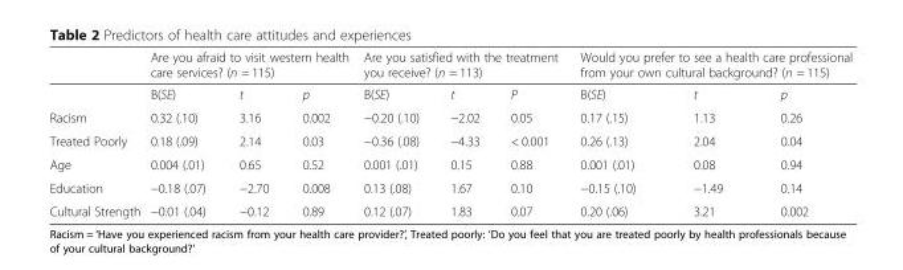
<table><thead><tr><td rowspan="2"></td><td colspan="3">Are you afraid to visit western health care services? (n = 115)</td><td colspan="3">Are you satisfied with the treatment you receive? (n = 113)</td><td colspan="3">Would you prefer to see a health care professional from your own cultural background? (n = 115)</td></tr><tr><td>B(SE)</td><td>t</td><td>p</td><td>B(SE)</td><td>t</td><td>P</td><td>B(SE)</td><td>t</td><td>p</td></tr></thead><tbody><tr><td>Racism</td><td>0.32 (.10)</td><td>3.16</td><td>0.002</td><td>−0.20 (.10)</td><td>−2.02</td><td>0.05</td><td>0.17 (.15)</td><td>1.13</td><td>0.26</td></tr><tr><td>Treated Poorly</td><td>0.18 (.09)</td><td>2.14</td><td>0.03</td><td>−0.36 (.08)</td><td>−4.33</td><td>&lt; 0.001</td><td>0.26 (.13)</td><td>2.04</td><td>0.04</td></tr><tr><td>Age</td><td>0.004 (.01)</td><td>0.65</td><td>0.52</td><td>0.001 (.01)</td><td>0.15</td><td>0.88</td><td>0.001 (.01)</td><td>0.08</td><td>0.94</td></tr><tr><td>Education</td><td>−0.18 (.07)</td><td>−2.70</td><td>0.008</td><td>0.13 (.08)</td><td>1.67</td><td>0.10</td><td>−0.15 (.10)</td><td>−1.49</td><td>0.14</td></tr><tr><td>Cultural Strength</td><td>−0.01 (.04)</td><td>−0.12</td><td>0.89</td><td>0.12 (.07)</td><td>1.83</td><td>0.07</td><td>0.20 (.06)</td><td>3.21</td><td>0.002</td></tr></tbody></table>